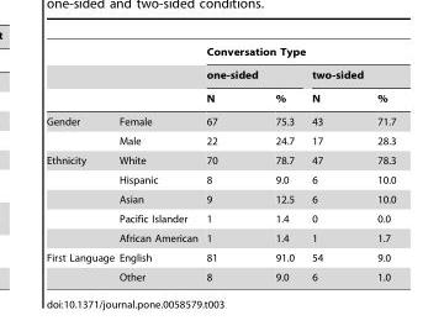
<table><thead><tr><td rowspan="3"></td><td rowspan="3"></td><td colspan="4">Conversation Type</td></tr><tr><td colspan="2">one-sided</td><td colspan="2">two-sided</td></tr><tr><td>N</td><td>%</td><td>N</td><td>%</td></tr></thead><tbody><tr><td rowspan="2">Gender</td><td>Female</td><td>67</td><td>75.3</td><td>43</td><td>71.7</td></tr><tr><td>Male</td><td>22</td><td>24.7</td><td>17</td><td>28.3</td></tr><tr><td rowspan="5">Ethnicity</td><td>White</td><td>70</td><td>78.7</td><td>47</td><td>78.3</td></tr><tr><td>Hispanic</td><td>8</td><td>9.0</td><td>6</td><td>10.0</td></tr><tr><td>Asian</td><td>9</td><td>12.5</td><td>6</td><td>10.0</td></tr><tr><td>Pacific Islander</td><td>1</td><td>1.4</td><td>0</td><td>0.0</td></tr><tr><td>African American</td><td>1</td><td>1.4</td><td>1</td><td>1.7</td></tr><tr><td rowspan="2">First Language</td><td>English</td><td>81</td><td>91.0</td><td>54</td><td>9.0</td></tr><tr><td>Other</td><td>8</td><td>9.0</td><td>6</td><td>1.0</td></tr></tbody></table>